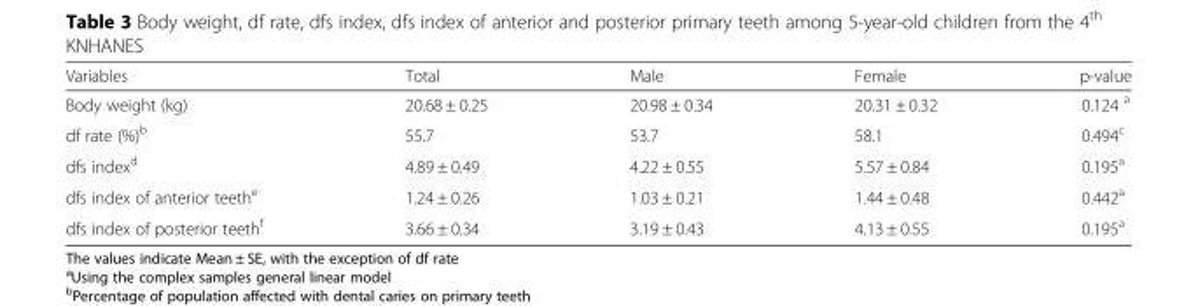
<table><thead><tr><td>Variables</td><td>Total</td><td>Male</td><td>Female</td><td>p-value</td></tr></thead><tbody><tr><td>Body weight (kg)</td><td>20.68 ± 0.25</td><td>20.98 ± 0.34</td><td>20.31 ± 0.32</td><td>0.124 <sup>a</sup></td></tr><tr><td>df rate (%)<sup>b</sup></td><td>55.7</td><td>53.7</td><td>58.1</td><td>0.494<sup>c</sup></td></tr><tr><td>dfs index<sup>d</sup></td><td>4.89 ± 0.49</td><td>4.22 ± 0.55</td><td>5.57 ± 0.84</td><td>0.195<sup>a</sup></td></tr><tr><td>dfs index of anterior teeth<sup>e</sup></td><td>1.24 ± 0.26</td><td>1.03 ± 0.21</td><td>1.44 ± 0.48</td><td>0.442<sup>a</sup></td></tr><tr><td>dfs index of posterior teeth<sup>f</sup></td><td>3.66 ± 0.34</td><td>3.19 ± 0.43</td><td>4.13 ± 0.55</td><td>0.195<sup>a</sup></td></tr></tbody></table>